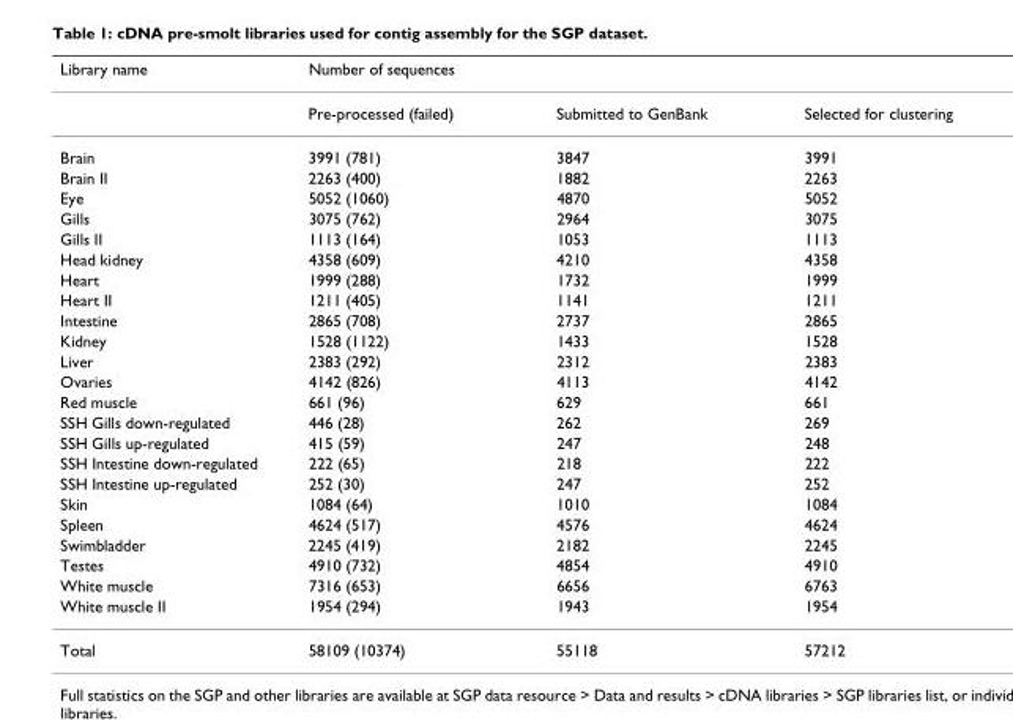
<table><thead><tr><td rowspan="2">Library name</td><td colspan="3">Number of sequences</td></tr><tr><td>Pre-processed (failed)</td><td>Submitted to GenBank</td><td>Selected for clustering</td></tr></thead><tbody><tr><td>Brain</td><td>3991 (781)</td><td>3847</td><td>3991</td></tr><tr><td>Brain II</td><td>2263 (400)</td><td>1882</td><td>2263</td></tr><tr><td>Eye</td><td>5052 (1060)</td><td>4870</td><td>5052</td></tr><tr><td>Gills</td><td>3075 (762)</td><td>2964</td><td>3075</td></tr><tr><td>Gills II</td><td>1113 (164)</td><td>1053</td><td>1113</td></tr><tr><td>Head kidney</td><td>4358 (609)</td><td>4210</td><td>4358</td></tr><tr><td>Heart</td><td>1999 (288)</td><td>1732</td><td>1999</td></tr><tr><td>Heart II</td><td>1211 (405)</td><td>1141</td><td>1211</td></tr><tr><td>Intestine</td><td>2865 (708)</td><td>2737</td><td>2865</td></tr><tr><td>Kidney</td><td>1528 (1122)</td><td>1433</td><td>1528</td></tr><tr><td>Liver</td><td>2383 (292)</td><td>2312</td><td>2383</td></tr><tr><td>Ovaries</td><td>4142 (826)</td><td>4113</td><td>4142</td></tr><tr><td>Red muscle</td><td>661 (96)</td><td>629</td><td>661</td></tr><tr><td>SSH Gills down-regulated</td><td>446 (28)</td><td>262</td><td>269</td></tr><tr><td>SSH Gills up-regulated</td><td>415 (59)</td><td>247</td><td>248</td></tr><tr><td>SSH Intestine down-regulated</td><td>222 (65)</td><td>218</td><td>222</td></tr><tr><td>SSH Intestine up-regulated</td><td>252 (30)</td><td>247</td><td>252</td></tr><tr><td>Skin</td><td>1084 (64)</td><td>1010</td><td>1084</td></tr><tr><td>Spleen</td><td>4624 (517)</td><td>4576</td><td>4624</td></tr><tr><td>Swimbladder</td><td>2245 (419)</td><td>2182</td><td>2245</td></tr><tr><td>Testes</td><td>4910 (732)</td><td>4854</td><td>4910</td></tr><tr><td>White muscle</td><td>7316 (653)</td><td>6656</td><td>6763</td></tr><tr><td>White muscle II</td><td>1954 (294)</td><td>1943</td><td>1954</td></tr><tr><td>Total</td><td>58109 (10374)</td><td>55118</td><td>57212</td></tr></tbody></table>